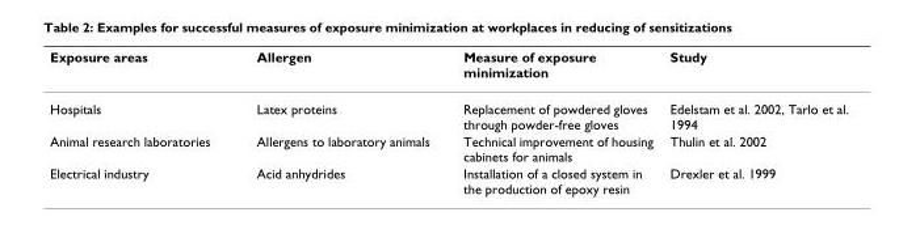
<table><thead><tr><td>Exposure areas</td><td>Allergen</td><td>Measure of exposure minimization</td><td>Study</td></tr></thead><tbody><tr><td>Hospitals</td><td>Latex proteins</td><td>Replacement of powdered gloves through powder-free gloves</td><td>Edelstam et al. 2002, Tarlo et al. 1994</td></tr><tr><td>Animal research laboratories</td><td>Allergens to laboratory animals</td><td>Technical improvement of housing cabinets for animals</td><td>Thulin et al. 2002</td></tr><tr><td>Electrical industry</td><td>Acid anhydrides</td><td>Installation of a closed system in the production of epoxy resin</td><td>Drexler et al. 1999</td></tr></tbody></table>